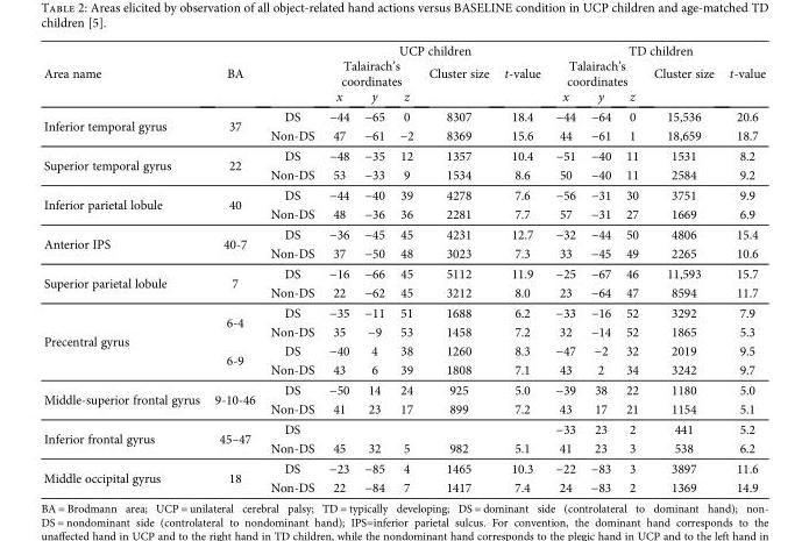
<table><thead><tr><td rowspan="3">Area name</td><td rowspan="3">BA</td><td rowspan="3"></td><td colspan="5">UCP children</td><td colspan="5">TD children</td></tr><tr><td colspan="3">Talairach’s coordinates</td><td rowspan="2">Cluster size</td><td rowspan="2">t-value</td><td colspan="3">Talairach’s coordinates</td><td rowspan="2">Cluster size</td><td rowspan="2">t-value</td></tr><tr><td>x</td><td>y</td><td>z</td><td>x</td><td>y</td><td>z</td></tr></thead><tbody><tr><td rowspan="2">Inferior temporal gyrus</td><td rowspan="2">37</td><td>DS</td><td>−44</td><td>−65</td><td>0</td><td>8307</td><td>18.4</td><td>−44</td><td>−64</td><td>0</td><td>15,536</td><td>20.6</td></tr><tr><td>Non-DS</td><td>47</td><td>−61</td><td>−2</td><td>8369</td><td>15.6</td><td>44</td><td>−61</td><td>1</td><td>18,659</td><td>18.7</td></tr><tr><td rowspan="2">Superior temporal gyrus</td><td rowspan="2">22</td><td>DS</td><td>−48</td><td>−35</td><td>12</td><td>1357</td><td>10.4</td><td>−51</td><td>−40</td><td>11</td><td>1531</td><td>8.2</td></tr><tr><td>Non-DS</td><td>53</td><td>−33</td><td>9</td><td>1534</td><td>8.6</td><td>50</td><td>−40</td><td>11</td><td>2584</td><td>9.2</td></tr><tr><td rowspan="2">Inferior parietal lobule</td><td rowspan="2">40</td><td>DS</td><td>−44</td><td>−40</td><td>39</td><td>4278</td><td>7.6</td><td>−56</td><td>−31</td><td>30</td><td>3751</td><td>9.9</td></tr><tr><td>Non-DS</td><td>48</td><td>−36</td><td>36</td><td>2281</td><td>7.7</td><td>57</td><td>−31</td><td>27</td><td>1669</td><td>6.9</td></tr><tr><td rowspan="2">Anterior IPS</td><td rowspan="2">40-7</td><td>DS</td><td>−36</td><td>−45</td><td>45</td><td>4231</td><td>12.7</td><td>−32</td><td>−44</td><td>50</td><td>4806</td><td>15.4</td></tr><tr><td>Non-DS</td><td>37</td><td>−50</td><td>48</td><td>3023</td><td>7.3</td><td>33</td><td>−45</td><td>49</td><td>2265</td><td>10.6</td></tr><tr><td rowspan="2">Superior parietal lobule</td><td rowspan="2">7</td><td>DS</td><td>−16</td><td>−66</td><td>45</td><td>5112</td><td>11.9</td><td>−25</td><td>−67</td><td>46</td><td>11,593</td><td>15.7</td></tr><tr><td>Non-DS</td><td>22</td><td>−62</td><td>45</td><td>3212</td><td>8.0</td><td>23</td><td>−64</td><td>47</td><td>8594</td><td>11.7</td></tr><tr><td rowspan="4">Precentral gyrus</td><td rowspan="2">6-4</td><td>DS</td><td>−35</td><td>−11</td><td>51</td><td>1688</td><td>6.2</td><td>−33</td><td>−16</td><td>52</td><td>3292</td><td>7.9</td></tr><tr><td>Non-DS</td><td>35</td><td>−9</td><td>53</td><td>1458</td><td>7.2</td><td>32</td><td>−14</td><td>52</td><td>1865</td><td>5.3</td></tr><tr><td rowspan="2">6-9</td><td>DS</td><td>−40</td><td>4</td><td>38</td><td>1260</td><td>8.3</td><td>−47</td><td>−2</td><td>32</td><td>2019</td><td>9.5</td></tr><tr><td>Non-DS</td><td>43</td><td>6</td><td>39</td><td>1808</td><td>7.1</td><td>43</td><td>2</td><td>34</td><td>3242</td><td>9.7</td></tr><tr><td rowspan="2">Middle-superior frontal gyrus</td><td rowspan="2">9-10-46</td><td>DS</td><td>−50</td><td>14</td><td>24</td><td>925</td><td>5.0</td><td>−39</td><td>38</td><td>22</td><td>1180</td><td>5.0</td></tr><tr><td>Non-DS</td><td>41</td><td>23</td><td>17</td><td>899</td><td>7.2</td><td>43</td><td>17</td><td>21</td><td>1154</td><td>5.1</td></tr><tr><td rowspan="2">Inferior frontal gyrus</td><td rowspan="2">45–47</td><td>DS</td><td></td><td></td><td></td><td></td><td></td><td>−33</td><td>23</td><td>2</td><td>441</td><td>5.2</td></tr><tr><td>Non-DS</td><td>45</td><td>32</td><td>5</td><td>982</td><td>5.1</td><td>41</td><td>23</td><td>3</td><td>538</td><td>6.2</td></tr><tr><td rowspan="2">Middle occipital gyrus</td><td rowspan="2">18</td><td>DS</td><td>−23</td><td>−85</td><td>4</td><td>1465</td><td>10.3</td><td>−22</td><td>−83</td><td>3</td><td>3897</td><td>11.6</td></tr><tr><td>Non-DS</td><td>22</td><td>−84</td><td>7</td><td>1417</td><td>7.4</td><td>24</td><td>−83</td><td>2</td><td>1369</td><td>14.9</td></tr></tbody></table>